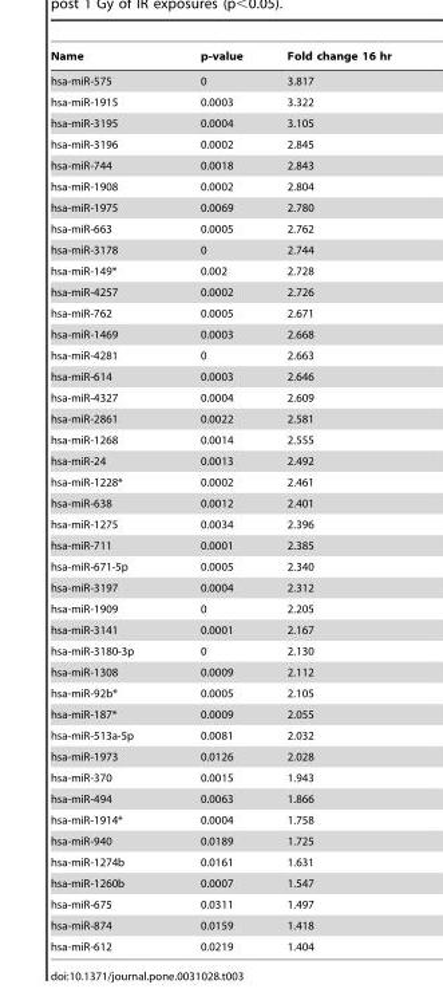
<table><thead><tr><td>Name</td><td>p-value</td><td>Fold change 16 hr</td></tr></thead><tbody><tr><td>hsa-miR-575</td><td>0</td><td>3.817</td></tr><tr><td>hsa-miR-1915</td><td>0.0003</td><td>3.322</td></tr><tr><td>hsa-miR-3195</td><td>0.0004</td><td>3.105</td></tr><tr><td>hsa-miR-3196</td><td>0.0002</td><td>2.845</td></tr><tr><td>hsa-miR-744</td><td>0.0018</td><td>2.843</td></tr><tr><td>hsa-miR-1908</td><td>0.0002</td><td>2.804</td></tr><tr><td>hsa-miR-1975</td><td>0.0069</td><td>2.780</td></tr><tr><td>hsa-miR-663</td><td>0.0005</td><td>2.762</td></tr><tr><td>hsa-miR-3178</td><td>0</td><td>2.744</td></tr><tr><td>hsa-miR-149*</td><td>0.002</td><td>2.728</td></tr><tr><td>hsa-miR-4257</td><td>0.0002</td><td>2.726</td></tr><tr><td>hsa-miR-762</td><td>0.0005</td><td>2.671</td></tr><tr><td>hsa-miR-1469</td><td>0.0003</td><td>2.668</td></tr><tr><td>hsa-miR-4281</td><td>0</td><td>2.663</td></tr><tr><td>hsa-miR-614</td><td>0.0003</td><td>2.646</td></tr><tr><td>hsa-miR-4327</td><td>0.0004</td><td>2.609</td></tr><tr><td>hsa-miR-2861</td><td>0.0022</td><td>2.581</td></tr><tr><td>hsa-miR-1268</td><td>0.0014</td><td>2.555</td></tr><tr><td>hsa-miR-24</td><td>0.0013</td><td>2.492</td></tr><tr><td>hsa-miR-1228*</td><td>0.0002</td><td>2.461</td></tr><tr><td>hsa-miR-638</td><td>0.0012</td><td>2.401</td></tr><tr><td>hsa-miR-1275</td><td>0.0034</td><td>2.396</td></tr><tr><td>hsa-miR-711</td><td>0.0001</td><td>2.385</td></tr><tr><td>hsa-miR-671-5p</td><td>0.0005</td><td>2.340</td></tr><tr><td>hsa-miR-3197</td><td>0.0004</td><td>2.312</td></tr><tr><td>hsa-miR-1909</td><td>0</td><td>2.205</td></tr><tr><td>hsa-miR-3141</td><td>0.0001</td><td>2.167</td></tr><tr><td>hsa-miR-3180-3p</td><td>0</td><td>2.130</td></tr><tr><td>hsa-miR-1308</td><td>0.0009</td><td>2.112</td></tr><tr><td>hsa-miR-92b*</td><td>0.0005</td><td>2.105</td></tr><tr><td>hsa-miR-187*</td><td>0.0009</td><td>2.055</td></tr><tr><td>hsa-miR-513a-5p</td><td>0.0081</td><td>2.032</td></tr><tr><td>hsa-miR-1973</td><td>0.0126</td><td>2.028</td></tr><tr><td>hsa-miR-370</td><td>0.0015</td><td>1.943</td></tr><tr><td>hsa-miR-494</td><td>0.0063</td><td>1.866</td></tr><tr><td>hsa-miR-1914*</td><td>0.0004</td><td>1.758</td></tr><tr><td>hsa-miR-940</td><td>0.0189</td><td>1.725</td></tr><tr><td>hsa-miR-1274b</td><td>0.0161</td><td>1.631</td></tr><tr><td>hsa-miR-1260b</td><td>0.0007</td><td>1.547</td></tr><tr><td>hsa-miR-675</td><td>0.0311</td><td>1.497</td></tr><tr><td>hsa-miR-874</td><td>0.0159</td><td>1.418</td></tr><tr><td>hsa-miR-612</td><td>0.0219</td><td>1.404</td></tr></tbody></table>